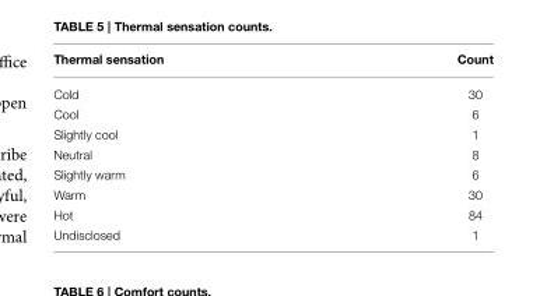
<table><thead><tr><td>Thermal sensation</td><td>Count</td></tr></thead><tbody><tr><td>Cold</td><td>30</td></tr><tr><td>Cool</td><td>6</td></tr><tr><td>Slightly cool</td><td>1</td></tr><tr><td>Neutral</td><td>8</td></tr><tr><td>Slightly warm</td><td>6</td></tr><tr><td>Warm</td><td>30</td></tr><tr><td>Hot</td><td>84</td></tr><tr><td>Undisclosed</td><td>1</td></tr></tbody></table>